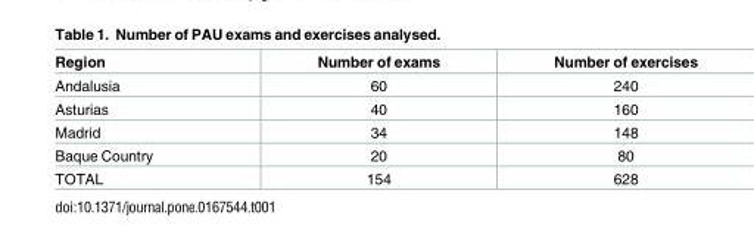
<table><thead><tr><td>Region</td><td>Number of exams</td><td>Number of exercises</td></tr></thead><tbody><tr><td>Andalusia</td><td>60</td><td>240</td></tr><tr><td>Asturias</td><td>40</td><td>160</td></tr><tr><td>Madrid</td><td>34</td><td>148</td></tr><tr><td>Baque Country</td><td>20</td><td>80</td></tr><tr><td>TOTAL</td><td>154</td><td>628</td></tr></tbody></table>